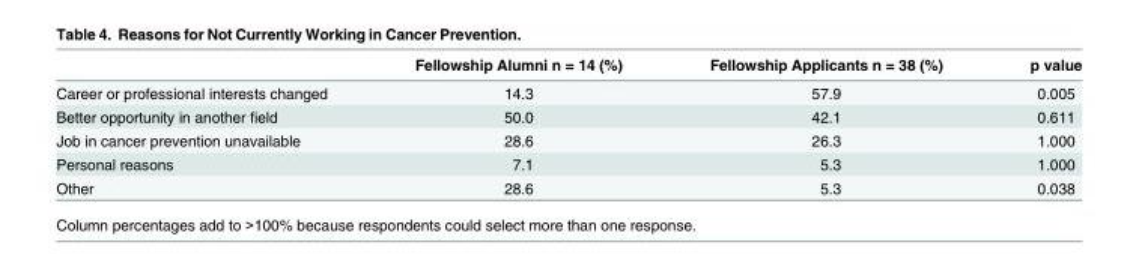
<table><thead><tr><td></td><td>Fellowship Alumni n = 14 (%)</td><td>Fellowship Applicants n = 38 (%)</td><td>p value</td></tr></thead><tbody><tr><td>Career or professional interests changed</td><td>14.3</td><td>57.9</td><td>0.005</td></tr><tr><td>Better opportunity in another field</td><td>50.0</td><td>42.1</td><td>0.611</td></tr><tr><td>Job in cancer prevention unavailable</td><td>28.6</td><td>26.3</td><td>1.000</td></tr><tr><td>Personal reasons</td><td>7.1</td><td>5.3</td><td>1.000</td></tr><tr><td>Other</td><td>28.6</td><td>5.3</td><td>0.038</td></tr></tbody></table>